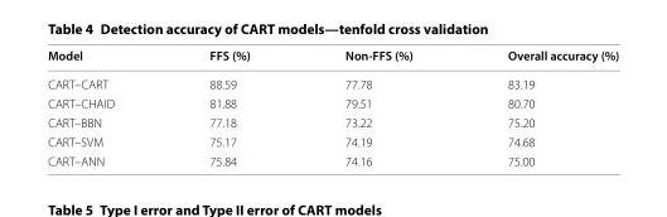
<table><thead><tr><td>Model</td><td>FFS (%)</td><td>Non‑FFS (%)</td><td>Overall accuracy (%)</td></tr></thead><tbody><tr><td>CART–CART</td><td>88.59</td><td>77.78</td><td>83.19</td></tr><tr><td>CART–CHAID</td><td>81.88</td><td>79.51</td><td>80.70</td></tr><tr><td>CART–BBN</td><td>77.18</td><td>73.22</td><td>75.20</td></tr><tr><td>CART–SVM</td><td>75.17</td><td>74.19</td><td>74.68</td></tr><tr><td>CART–ANN</td><td>75.84</td><td>74.16</td><td>75.00</td></tr></tbody></table>